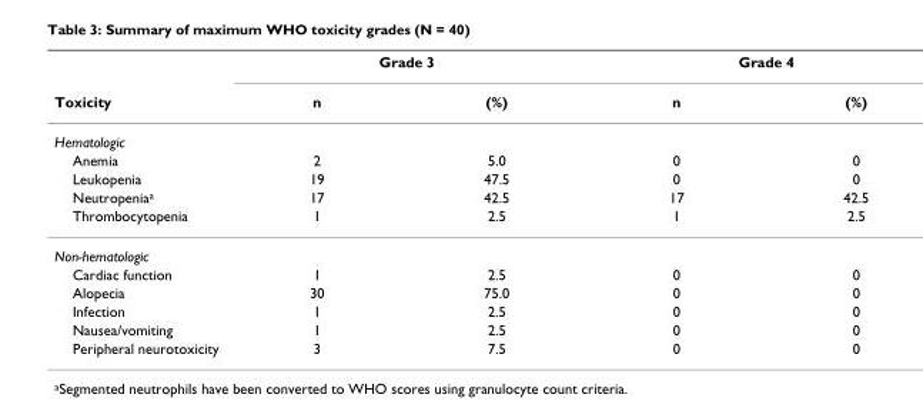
<table><thead><tr><td rowspan="2">Toxicity</td><td colspan="2">Grade 3</td><td colspan="2">Grade 4</td></tr><tr><td>n</td><td>(%)</td><td>n</td><td>(%)</td></tr></thead><tbody><tr><td colspan="5">Hematologic</td></tr><tr><td>Anemia</td><td>2</td><td>5.0</td><td>0</td><td>0</td></tr><tr><td>Leukopenia</td><td>19</td><td>47.5</td><td>0</td><td>0</td></tr><tr><td>Neutropeniaa</td><td>17</td><td>42.5</td><td>17</td><td>42.5</td></tr><tr><td>Thrombocytopenia</td><td>1</td><td>2.5</td><td>1</td><td>2.5</td></tr><tr><td colspan="5">Non-hematologic</td></tr><tr><td>Cardiac function</td><td>1</td><td>2.5</td><td>0</td><td>0</td></tr><tr><td>Alopecia</td><td>30</td><td>75.0</td><td>0</td><td>0</td></tr><tr><td>Infection</td><td>1</td><td>2.5</td><td>0</td><td>0</td></tr><tr><td>Nausea/vomiting</td><td>1</td><td>2.5</td><td>0</td><td>0</td></tr><tr><td>Peripheral neurotoxicity</td><td>3</td><td>7.5</td><td>0</td><td>0</td></tr></tbody></table>